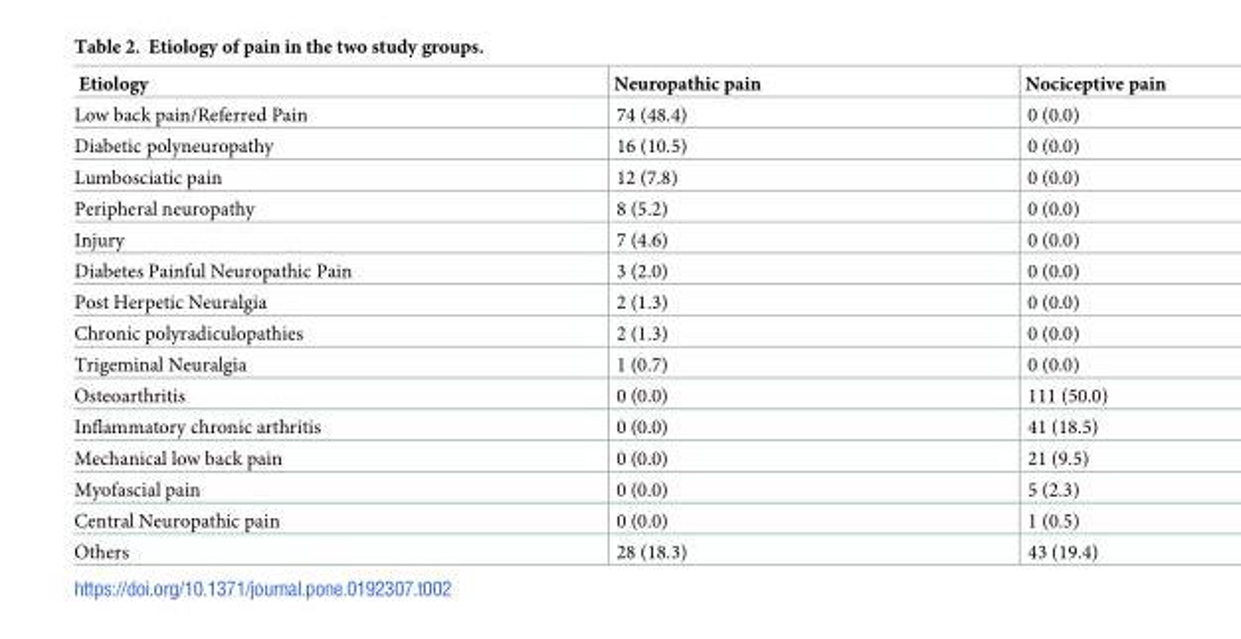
<table><thead><tr><td>Etiology</td><td>Neuropathic pain</td><td>Nociceptive pain</td></tr></thead><tbody><tr><td>Low back pain/Referred Pain</td><td>74 (48.4)</td><td>0 (0.0)</td></tr><tr><td>Diabetic polyneuropathy</td><td>16 (10.5)</td><td>0 (0.0)</td></tr><tr><td>Lumbosciatic pain</td><td>12 (7.8)</td><td>0 (0.0)</td></tr><tr><td>Peripheral neuropathy</td><td>8 (5.2)</td><td>0 (0.0)</td></tr><tr><td>Injury</td><td>7 (4.6)</td><td>0 (0.0)</td></tr><tr><td>Diabetes Painful Neuropathic Pain</td><td>3 (2.0)</td><td>0 (0.0)</td></tr><tr><td>Post Herpetic Neuralgia</td><td>2 (1.3)</td><td>0 (0.0)</td></tr><tr><td>Chronic polyradiculopathies</td><td>2 (1.3)</td><td>0 (0.0)</td></tr><tr><td>Trigeminal Neuralgia</td><td>1 (0.7)</td><td>0 (0.0)</td></tr><tr><td>Osteoarthritis</td><td>0 (0.0)</td><td>111 (50.0)</td></tr><tr><td>Inflammatory chronic arthritis</td><td>0 (0.0)</td><td>41 (18.5)</td></tr><tr><td>Mechanical low back pain</td><td>0 (0.0)</td><td>21 (9.5)</td></tr><tr><td>Myofascial pain</td><td>0 (0.0)</td><td>5 (2.3)</td></tr><tr><td>Central Neuropathic pain</td><td>0 (0.0)</td><td>1 (0.5)</td></tr><tr><td>Others</td><td>28 (18.3)</td><td>43 (19.4)</td></tr></tbody></table>